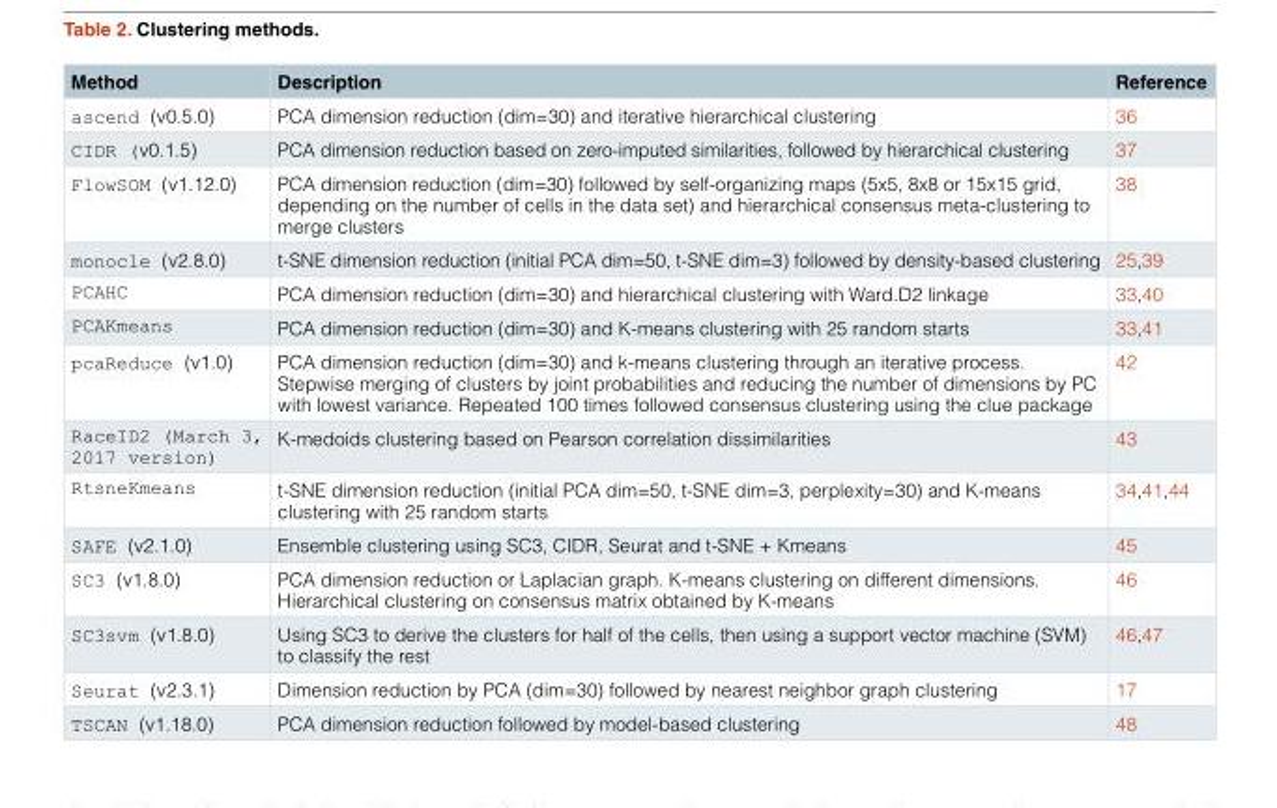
<table><thead><tr><td>Method</td><td>Description</td><td>Reference</td></tr></thead><tbody><tr><td>ascend (v0.5.0)</td><td>PCA dimension reduction (dim=30) and iterative hierarchical clustering</td><td>36</td></tr><tr><td>CIDR (v0.1.5)</td><td>PCA dimension reduction based on zero-imputed similarities, followed by hierarchical clustering</td><td>37</td></tr><tr><td>FlowSOM (v1.12.0)</td><td>PCA dimension reduction (dim=30) followed by self-organizing maps (5x5, 8x8 or 15x15 grid, depending on the number of cells in the data set) and hierarchical consensus meta-clustering to merge clusters</td><td>38</td></tr><tr><td>monocle (v2.8.0)</td><td>t-SNE dimension reduction (initial PCA dim=50, t-SNE dim=3) followed by density-based clustering</td><td>25,39</td></tr><tr><td>PCAHC</td><td>PCA dimension reduction (dim=30) and hierarchical clustering with Ward.D2 linkage</td><td>33,40</td></tr><tr><td>PCAKmeans</td><td>PCA dimension reduction (dim=30) and K-means clustering with 25 random starts</td><td>33,41</td></tr><tr><td>pcaReduce (v1.0)</td><td>PCA dimension reduction (dim=30) and k-means clustering through an iterative process. Stepwise merging of clusters by joint probabilities and reducing the number of dimensions by PC with lowest variance. Repeated 100 times followed consensus clustering using the clue package</td><td>42</td></tr><tr><td>RaceID2 (March 3, 2017 version)</td><td>K-medoids clustering based on Pearson correlation dissimilarities</td><td>43</td></tr><tr><td>RtsneKmeans</td><td>t-SNE dimension reduction (initial PCA dim=50, t-SNE dim=3, perplexity=30) and K-means clustering with 25 random starts</td><td>34,41,44</td></tr><tr><td>SAFE (v2.1.0)</td><td>Ensemble clustering using SC3, CIDR, Seurat and t-SNE + Kmeans</td><td>45</td></tr><tr><td>SC3 (v1.8.0)</td><td>PCA dimension reduction or Laplacian graph. K-means clustering on different dimensions. Hierarchical clustering on consensus matrix obtained by K-means</td><td>46</td></tr><tr><td>SC3svm (v1.8.0)</td><td>Using SC3 to derive the clusters for half of the cells, then using a support vector machine (SVM) to classify the rest</td><td>46,47</td></tr><tr><td>Seurat (v2.3.1)</td><td>Dimension reduction by PCA (dim=30) followed by nearest neighbor graph clustering</td><td>17</td></tr><tr><td>TSCAN (v1.18.0)</td><td>PCA dimension reduction followed by model-based clustering</td><td>48</td></tr></tbody></table>